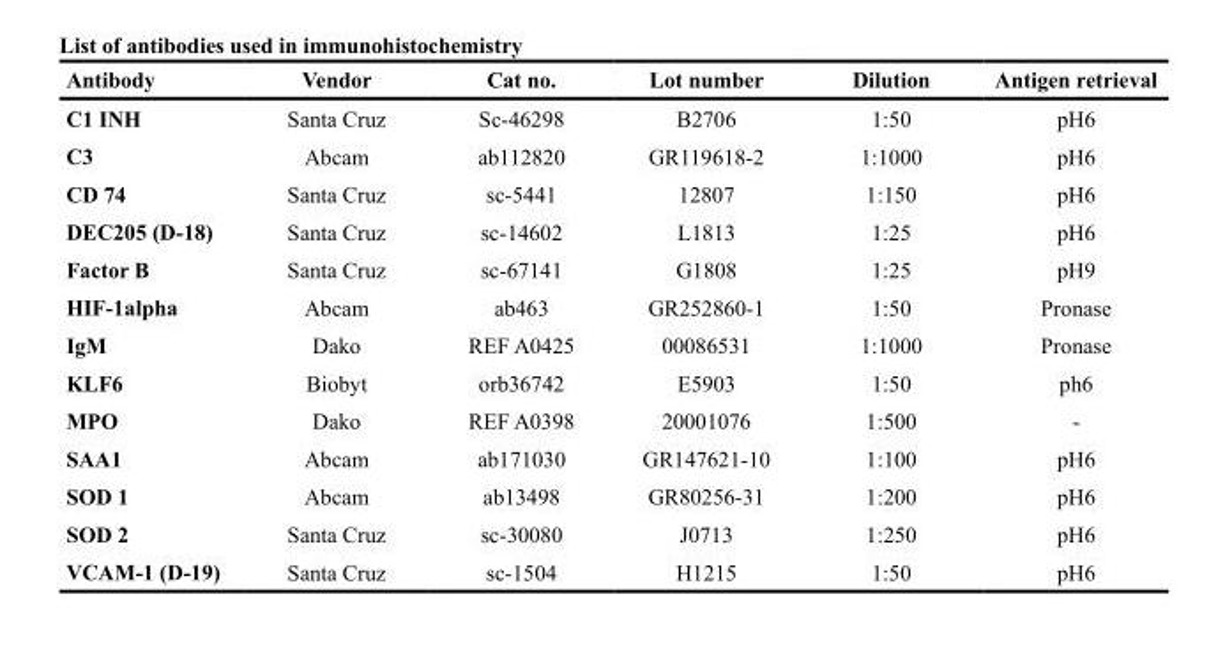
<table><thead><tr><td>Antibody</td><td>Vendor</td><td>Cat no.</td><td>Lot number</td><td>Dilution</td><td>Antigen retrieval</td></tr></thead><tbody><tr><td>C1 INH</td><td>Santa Cruz</td><td>Sc-46298</td><td>B2706</td><td>1:50</td><td>pH6</td></tr><tr><td>C3</td><td>Abcam</td><td>ab112820</td><td>GR119618-2</td><td>1:1000</td><td>pH6</td></tr><tr><td>CD 74</td><td>Santa Cruz</td><td>sc-5441</td><td>12807</td><td>1:150</td><td>pH6</td></tr><tr><td>DEC205 (D-18)</td><td>Santa Cruz</td><td>sc-14602</td><td>L1813</td><td>1:25</td><td>pH6</td></tr><tr><td>Factor B</td><td>Santa Cruz</td><td>sc-67141</td><td>G1808</td><td>1:25</td><td>pH9</td></tr><tr><td>HIF-1alpha</td><td>Abcam</td><td>ab463</td><td>GR252860-1</td><td>1:50</td><td>Pronase</td></tr><tr><td>IgM</td><td>Dako</td><td>REF A0425</td><td>00086531</td><td>1:1000</td><td>Pronase</td></tr><tr><td>KLF6</td><td>Biobyt</td><td>orb36742</td><td>E5903</td><td>1:50</td><td>ph6</td></tr><tr><td>MPO</td><td>Dako</td><td>REF A0398</td><td>20001076</td><td>1:500</td><td>-</td></tr><tr><td>SAA1</td><td>Abcam</td><td>ab171030</td><td>GR147621-10</td><td>1:100</td><td>pH6</td></tr><tr><td>SOD 1</td><td>Abcam</td><td>ab13498</td><td>GR80256-31</td><td>1:200</td><td>pH6</td></tr><tr><td>SOD 2</td><td>Santa Cruz</td><td>sc-30080</td><td>J0713</td><td>1:250</td><td>pH6</td></tr><tr><td>VCAM-1 (D-19)</td><td>Santa Cruz</td><td>sc-1504</td><td>H1215</td><td>1:50</td><td>pH6</td></tr></tbody></table>